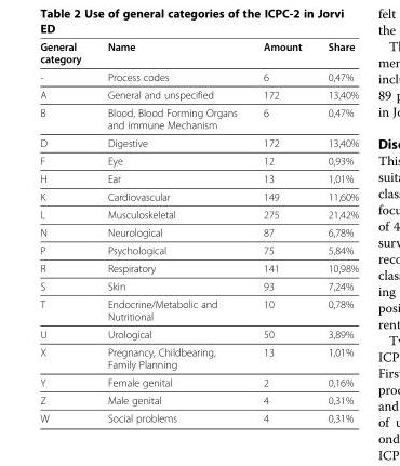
<table><thead><tr><td>General category</td><td>Name</td><td>Amount</td><td>Share</td></tr></thead><tbody><tr><td>-</td><td>Process codes</td><td>6</td><td>0,47%</td></tr><tr><td>A</td><td>General and unspecified</td><td>172</td><td>13,40%</td></tr><tr><td>B</td><td>Blood, Blood Forming Organs and immune Mechanism</td><td>6</td><td>0,47%</td></tr><tr><td>D</td><td>Digestive</td><td>172</td><td>13,40%</td></tr><tr><td>F</td><td>Eye</td><td>12</td><td>0,93%</td></tr><tr><td>H</td><td>Ear</td><td>13</td><td>1,01%</td></tr><tr><td>K</td><td>Cardiovascular</td><td>149</td><td>11,60%</td></tr><tr><td>L</td><td>Musculoskeletal</td><td>275</td><td>21,42%</td></tr><tr><td>N</td><td>Neurological</td><td>87</td><td>6,78%</td></tr><tr><td>P</td><td>Psychological</td><td>75</td><td>5,84%</td></tr><tr><td>R</td><td>Respiratory</td><td>141</td><td>10,98%</td></tr><tr><td>S</td><td>Skin</td><td>93</td><td>7,24%</td></tr><tr><td>T</td><td>Endocrine/Metabolic and Nutritional</td><td>10</td><td>0,78%</td></tr><tr><td>U</td><td>Urological</td><td>50</td><td>3,89%</td></tr><tr><td>X</td><td>Pregnancy, Childbearing, Family Planning</td><td>13</td><td>1,01%</td></tr><tr><td>Y</td><td>Female genital</td><td>2</td><td>0,16%</td></tr><tr><td>Z</td><td>Male genital</td><td>4</td><td>0,31%</td></tr><tr><td>W</td><td>Social problems</td><td>4</td><td>0,31%</td></tr></tbody></table>